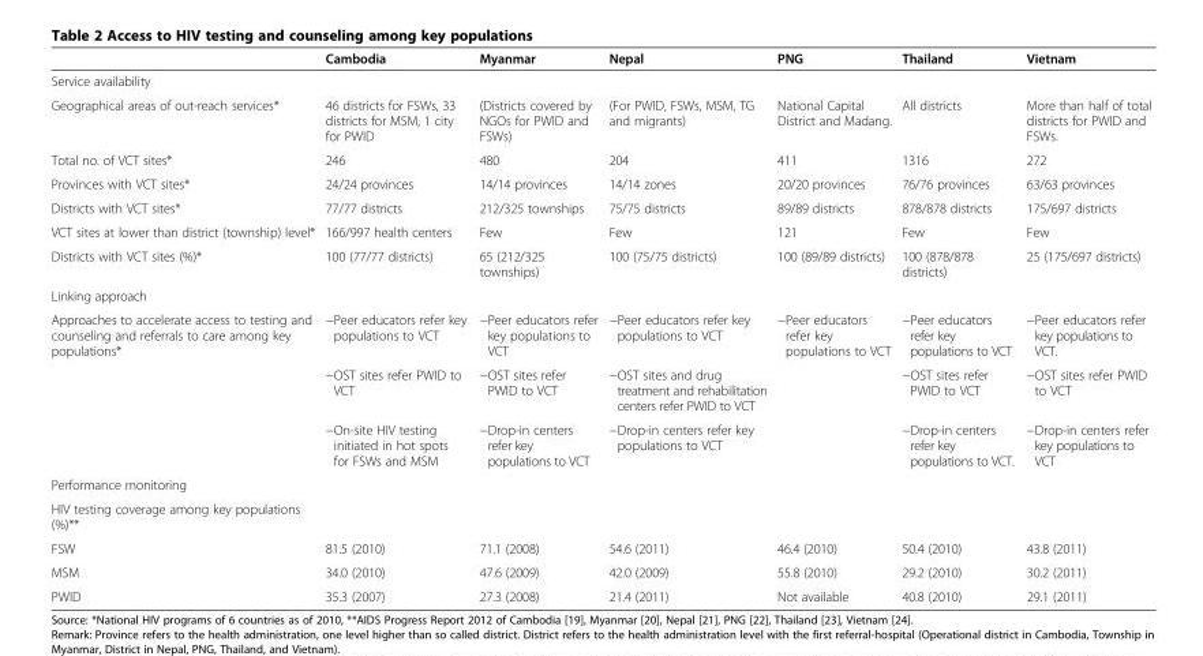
<table><thead><tr><td></td><td>Cambodia</td><td>Myanmar</td><td>Nepal</td><td>PNG</td><td>Thailand</td><td>Vietnam</td></tr></thead><tbody><tr><td colspan="7">Service availability</td></tr><tr><td>Geographical areas of out-reach services*</td><td>46 districts for FSWs, 33 districts for MSM, 1 city for PWID</td><td>(Districts covered by NGOs for PWID and FSWs)</td><td>(For PWID, FSWs, MSM, TG and migrants)</td><td>National Capital District and Madang.</td><td>All districts</td><td>More than half of total districts for PWID and FSWs.</td></tr><tr><td>Total no. of VCT sites*</td><td>246</td><td>480</td><td>204</td><td>411</td><td>1316</td><td>272</td></tr><tr><td>Provinces with VCT sites*</td><td>24/24 provinces</td><td>14/14 provinces</td><td>14/14 zones</td><td>20/20 provinces</td><td>76/76 provinces</td><td>63/63 provinces</td></tr><tr><td>Districts with VCT sites*</td><td>77/77 districts</td><td>212/325 townships</td><td>75/75 districts</td><td>89/89 districts</td><td>878/878 districts</td><td>175/697 districts</td></tr><tr><td>VCT sites at lower than district (township) level*</td><td>166/997 health centers</td><td>Few</td><td>Few</td><td>121</td><td>Few</td><td>Few</td></tr><tr><td>Districts with VCT sites (%)*</td><td>100 (77/77 districts)</td><td>65 (212/325 townships)</td><td>100 (75/75 districts)</td><td>100 (89/89 districts)</td><td>100 (878/878 districts)</td><td>25 (175/697 districts)</td></tr><tr><td colspan="7">Linking approach</td></tr><tr><td rowspan="3">Approaches to accelerate access to testing and counseling and referrals to care among key populations*</td><td>−Peer educators refer key populations to VCT</td><td>−Peer educators refer key populations to VCT</td><td>−Peer educators refer key populations to VCT</td><td>−Peer educators refer key populations to VCT</td><td>−Peer educators refer key populations to VCT</td><td>−Peer educators refer key populations to VCT.</td></tr><tr><td>−OST sites refer PWID to VCT</td><td>−OST sites refer PWID to VCT</td><td>−OST sites and drug treatment and rehabilitation centers refer PWID to VCT</td><td></td><td>−OST sites refer PWID to VCT</td><td>−OST sites refer PWID to VCT</td></tr><tr><td>−On-site HIV testing initiated in hot spots for FSWs and MSM</td><td>−Drop-in centers refer key populations to VCT</td><td>−Drop-in centers refer key populations to VCT</td><td></td><td>−Drop-in centers refer key populations to VCT.</td><td>−Drop-in centers refer key populations to VCT</td></tr><tr><td colspan="7">Performance monitoring</td></tr><tr><td colspan="7">HIV testing coverage among key populations (%)**</td></tr><tr><td>FSW</td><td>81.5 (2010)</td><td>71.1 (2008)</td><td>54.6 (2011)</td><td>46.4 (2010)</td><td>50.4 (2010)</td><td>43.8 (2011)</td></tr><tr><td>MSM</td><td>34.0 (2010)</td><td>47.6 (2009)</td><td>42.0 (2009)</td><td>55.8 (2010)</td><td>29.2 (2010)</td><td>30.2 (2011)</td></tr><tr><td>PWID</td><td>35.3 (2007)</td><td>27.3 (2008)</td><td>21.4 (2011)</td><td>Not available</td><td>40.8 (2010)</td><td>29.1 (2011)</td></tr></tbody></table>